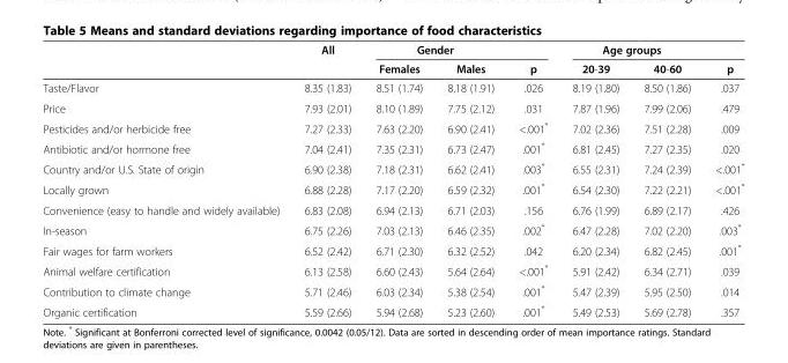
<table><thead><tr><td rowspan="2"></td><td rowspan="2">All</td><td colspan="2">Gender</td><td rowspan="2">p</td><td colspan="2">Age groups</td><td rowspan="2">p</td></tr><tr><td>Females</td><td>Males</td><td>20-39</td><td>40-60</td></tr></thead><tbody><tr><td>Taste/Flavor</td><td>8.35 (1.83)</td><td>8.51 (1.74)</td><td>8.18 (1.91)</td><td>.026</td><td>8.19 (1.80)</td><td>8.50 (1.86)</td><td>.037</td></tr><tr><td>Price</td><td>7.93 (2.01)</td><td>8.10 (1.89)</td><td>7.75 (2.12)</td><td>.031</td><td>7.87 (1.96)</td><td>7.99 (2.06)</td><td>.479</td></tr><tr><td>Pesticides and/or herbicide free</td><td>7.27 (2.33)</td><td>7.63 (2.20)</td><td>6.90 (2.41)</td><td>&lt;.001*</td><td>7.02 (2.36)</td><td>7.51 (2.28)</td><td>.009</td></tr><tr><td>Antibiotic and/or hormone free</td><td>7.04 (2.41)</td><td>7.35 (2.31)</td><td>6.73 (2.47)</td><td>.001*</td><td>6.81 (2.45)</td><td>7.27 (2.35)</td><td>.020</td></tr><tr><td>Country and/or U.S. State of origin</td><td>6.90 (2.38)</td><td>7.18 (2.31)</td><td>6.62 (2.41)</td><td>.003*</td><td>6.55 (2.31)</td><td>7.24 (2.39)</td><td>&lt;.001*</td></tr><tr><td>Locally grown</td><td>6.88 (2.28)</td><td>7.17 (2.20)</td><td>6.59 (2.32)</td><td>.001*</td><td>6.54 (2.30)</td><td>7.22 (2.21)</td><td>&lt;.001*</td></tr><tr><td>Convenience (easy to handle and widely available)</td><td>6.83 (2.08)</td><td>6.94 (2.13)</td><td>6.71 (2.03)</td><td>.156</td><td>6.76 (1.99)</td><td>6.89 (2.17)</td><td>.426</td></tr><tr><td>In-season</td><td>6.75 (2.26)</td><td>7.03 (2.13)</td><td>6.46 (2.35)</td><td>.002*</td><td>6.47 (2.28)</td><td>7.02 (2.20)</td><td>.003*</td></tr><tr><td>Fair wages for farm workers</td><td>6.52 (2.42)</td><td>6.71 (2.30)</td><td>6.32 (2.52)</td><td>.042</td><td>6.20 (2.34)</td><td>6.82 (2.45)</td><td>.001*</td></tr><tr><td>Animal welfare certification</td><td>6.13 (2.58)</td><td>6.60 (2.43)</td><td>5.64 (2.64)</td><td>&lt;.001*</td><td>5.91 (2.42)</td><td>6.34 (2.71)</td><td>.039</td></tr><tr><td>Contribution to climate change</td><td>5.71 (2.46)</td><td>6.03 (2.34)</td><td>5.38 (2.54)</td><td>.001*</td><td>5.47 (2.39)</td><td>5.95 (2.50)</td><td>.014</td></tr><tr><td>Organic certification</td><td>5.59 (2.66)</td><td>5.94 (2.68)</td><td>5.23 (2.60)</td><td>.001*</td><td>5.49 (2.53)</td><td>5.69 (2.78)</td><td>.357</td></tr></tbody></table>